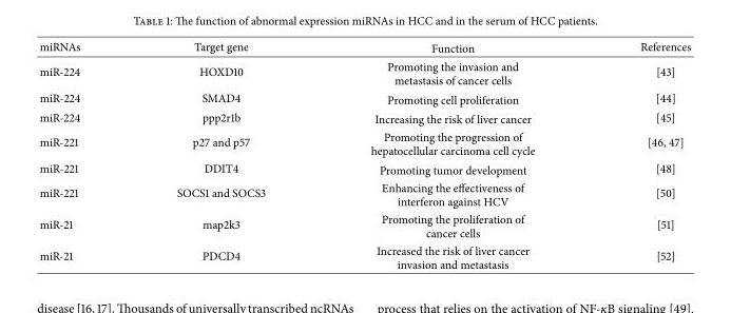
<table><thead><tr><td>miRNAs</td><td>Target gene</td><td>Function</td><td>References</td></tr></thead><tbody><tr><td>miR-224</td><td>HOXD10</td><td>Promoting the invasion and metastasis of cancer cells</td><td>[43]</td></tr><tr><td>miR-224</td><td>SMAD4</td><td>Promoting cell proliferation</td><td>[44]</td></tr><tr><td>miR-224</td><td>ppp2r1b</td><td>Increasing the risk of liver cancer</td><td>[45]</td></tr><tr><td>miR-221</td><td>p27 and p57</td><td>Promoting the progression of hepatocellular carcinoma cell cycle</td><td>[46, 47]</td></tr><tr><td>miR-221</td><td>DDIT4</td><td>Promoting tumor development</td><td>[48]</td></tr><tr><td>miR-221</td><td>SOCS1 and SOCS3</td><td>Enhancing the effectiveness of interferon against HCV</td><td>[50]</td></tr><tr><td>miR-21</td><td>map2k3</td><td>Promoting the proliferation of cancer cells</td><td>[51]</td></tr><tr><td>miR-21</td><td>PDCD4</td><td>Increased the risk of liver cancer invasion and metastasis</td><td>[52]</td></tr></tbody></table>